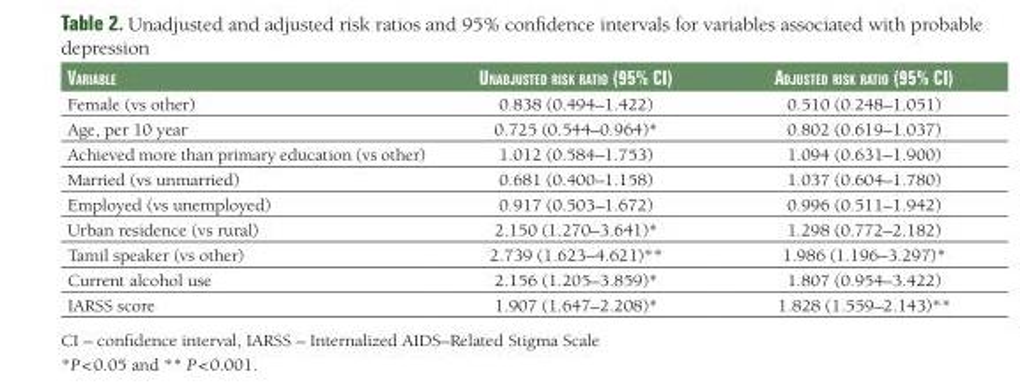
<table><thead><tr><td>variable</td><td>UnadjUsted risk ratiO (95% Ci)</td><td>adjUsted risk ratiO (95% Ci)</td></tr></thead><tbody><tr><td>Female (vs other)</td><td>0.838 (0.494–1.422)</td><td>0.510 (0.248–1.051)</td></tr><tr><td>Age, per 10 year</td><td>0.725 (0.544–0.964)*</td><td>0.802 (0.619–1.037)</td></tr><tr><td>Achieved more than primary education (vs other)</td><td>1.012 (0.584–1.753)</td><td>1.094 (0.631–1.900)</td></tr><tr><td>Married (vs unmarried)</td><td>0.681 (0.400–1.158)</td><td>1.037 (0.604–1.780)</td></tr><tr><td>Employed (vs unemployed)</td><td>0.917 (0.503–1.672)</td><td>0.996 (0.511–1.942)</td></tr><tr><td>Urban residence (vs rural)</td><td>2.150 (1.270–3.641)*</td><td>1.298 (0.772–2.182)</td></tr><tr><td>Tamil speaker (vs other)</td><td>2.739 (1.623–4.621)**</td><td>1.986 (1.196–3.297)*</td></tr><tr><td>Current alcohol use</td><td>2.156 (1.205–3.859)*</td><td>1.807 (0.954–3.422)</td></tr><tr><td>IARSS score</td><td>1.907 (1.647–2.208)*</td><td>1.828 (1.559–2.143)**</td></tr></tbody></table>